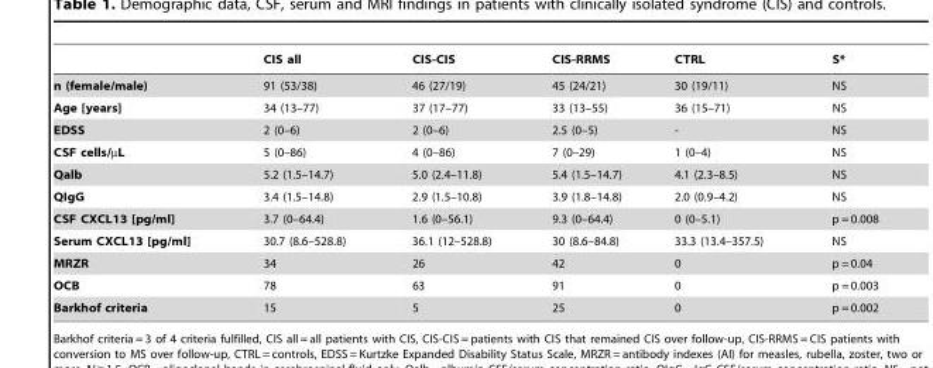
<table><thead><tr><td></td><td>CIS all</td><td>CIS-CIS</td><td>CIS-RRMS</td><td>CTRL</td><td>S*</td></tr></thead><tbody><tr><td>n (female/male)</td><td>91 (53/38)</td><td>46 (27/19)</td><td>45 (24/21)</td><td>30 (19/11)</td><td>NS</td></tr><tr><td>Age [years]</td><td>34 (13–77)</td><td>37 (17–77)</td><td>33 (13–55)</td><td>36 (15–71)</td><td>NS</td></tr><tr><td>EDSS</td><td>2 (0–6)</td><td>2 (0–6)</td><td>2.5 (0–5)</td><td>-</td><td>NS</td></tr><tr><td>CSF cells/µL</td><td>5 (0–86)</td><td>4 (0–86)</td><td>7 (0–29)</td><td>1 (0–4)</td><td>NS</td></tr><tr><td>Qalb</td><td>5.2 (1.5–14.7)</td><td>5.0 (2.4–11.8)</td><td>5.4 (1.5–14.7)</td><td>4.1 (2.3–8.5)</td><td>NS</td></tr><tr><td>QIgG</td><td>3.4 (1.5–14.8)</td><td>2.9 (1.5–10.8)</td><td>3.9 (1.8–14.8)</td><td>2.0 (0.9–4.2)</td><td>NS</td></tr><tr><td>CSF CXCL13 [pg/ml]</td><td>3.7 (0–64.4)</td><td>1.6 (0–56.1)</td><td>9.3 (0–64.4)</td><td>0 (0–5.1)</td><td>p = 0.008</td></tr><tr><td>Serum CXCL13 [pg/ml]</td><td>30.7 (8.6–528.8)</td><td>36.1 (12–528.8)</td><td>30 (8.6–84.8)</td><td>33.3 (13.4–357.5)</td><td>NS</td></tr><tr><td>MRZR</td><td>34</td><td>26</td><td>42</td><td>0</td><td>p = 0.04</td></tr><tr><td>OCB</td><td>78</td><td>63</td><td>91</td><td>0</td><td>p = 0.003</td></tr><tr><td>Barkhof criteria</td><td>15</td><td>5</td><td>25</td><td>0</td><td>p = 0.002</td></tr></tbody></table>